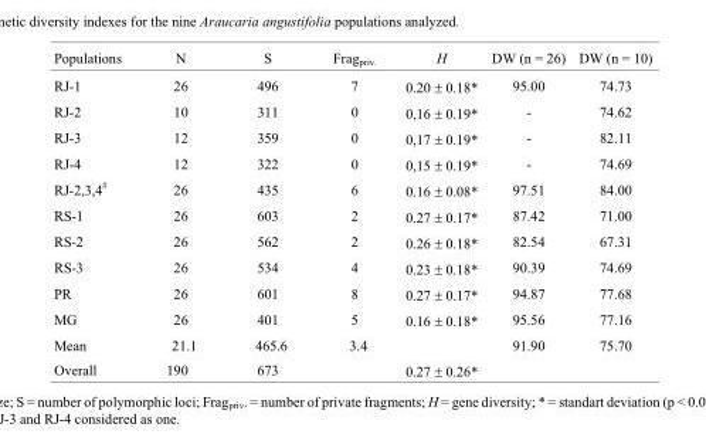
<table><thead><tr><td>Populations</td><td>N</td><td>S</td><td>Frag<sub>priv.</sub></td><td>H</td><td>DW (n = 26)</td><td>DW (n = 10)</td></tr></thead><tbody><tr><td>RJ-1</td><td>26</td><td>496</td><td>7</td><td>0.20 ± 0.18*</td><td>95.00</td><td>74.73</td></tr><tr><td>RJ-2</td><td>10</td><td>311</td><td>0</td><td>0,16 ± 0.19*</td><td>-</td><td>74.62</td></tr><tr><td>RJ-3</td><td>12</td><td>359</td><td>0</td><td>0,17 ± 0.19*</td><td>-</td><td>82.11</td></tr><tr><td>RJ-4</td><td>12</td><td>322</td><td>0</td><td>0,15 ± 0.19*</td><td>-</td><td>74.69</td></tr><tr><td>RJ-2,3,4<sup>#</sup></td><td>26</td><td>435</td><td>6</td><td>0.16 ± 0.08*</td><td>97.51</td><td>84.00</td></tr><tr><td>RS-1</td><td>26</td><td>603</td><td>2</td><td>0.27 ± 0.17*</td><td>87.42</td><td>71.00</td></tr><tr><td>RS-2</td><td>26</td><td>562</td><td>2</td><td>0.26 ± 0.18*</td><td>82.54</td><td>67.31</td></tr><tr><td>RS-3</td><td>26</td><td>534</td><td>4</td><td>0.23 ± 0.18*</td><td>90.39</td><td>74.69</td></tr><tr><td>PR</td><td>26</td><td>601</td><td>8</td><td>0.27 ± 0.17*</td><td>94.87</td><td>77.68</td></tr><tr><td>MG</td><td>26</td><td>401</td><td>5</td><td>0.16 ± 0.18*</td><td>95.56</td><td>77.16</td></tr><tr><td>Mean</td><td>21.1</td><td>465.6</td><td>3.4</td><td></td><td>91.90</td><td>75.70</td></tr><tr><td>Overall</td><td>190</td><td>673</td><td></td><td>0.27 ± 0.26*</td><td></td><td></td></tr></tbody></table>